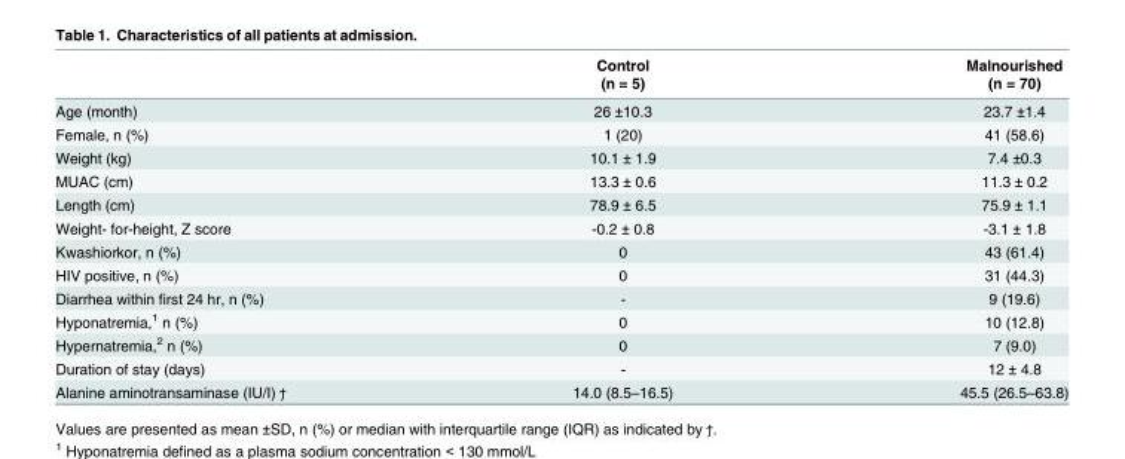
<table><thead><tr><td rowspan="2"></td><td rowspan="2">Control (n = 5)</td><td rowspan="2">Malnourished (n = 70)</td></tr><tr></tr></thead><tbody><tr><td>Age (month)</td><td>26 ±10.3</td><td>23.7 ±1.4</td></tr><tr><td>Female, n (%)</td><td>1 (20)</td><td>41 (58.6)</td></tr><tr><td>Weight (kg)</td><td>10.1 ± 1.9</td><td>7.4 ±0.3</td></tr><tr><td>MUAC (cm)</td><td>13.3 ± 0.6</td><td>11.3 ± 0.2</td></tr><tr><td>Length (cm)</td><td>78.9 ± 6.5</td><td>75.9 ± 1.1</td></tr><tr><td>Weight- for-height, Z score</td><td>-0.2 ± 0.8</td><td>-3.1 ± 1.8</td></tr><tr><td>Kwashiorkor, n (%)</td><td>0</td><td>43 (61.4)</td></tr><tr><td>HIV positive, n (%)</td><td>0</td><td>31 (44.3)</td></tr><tr><td>Diarrhea within first 24 hr, n (%)</td><td>-</td><td>9 (19.6)</td></tr><tr><td>Hyponatremia,<sup>1</sup> n (%)</td><td>0</td><td>10 (12.8)</td></tr><tr><td>Hypernatremia,<sup>2</sup> n (%)</td><td>0</td><td>7 (9.0)</td></tr><tr><td>Duration of stay (days)</td><td>-</td><td>12 ± 4.8</td></tr><tr><td>Alanine aminotransaminase (IU/I) ϯ</td><td>14.0 (8.5–16.5)</td><td>45.5 (26.5–63.8)</td></tr></tbody></table>